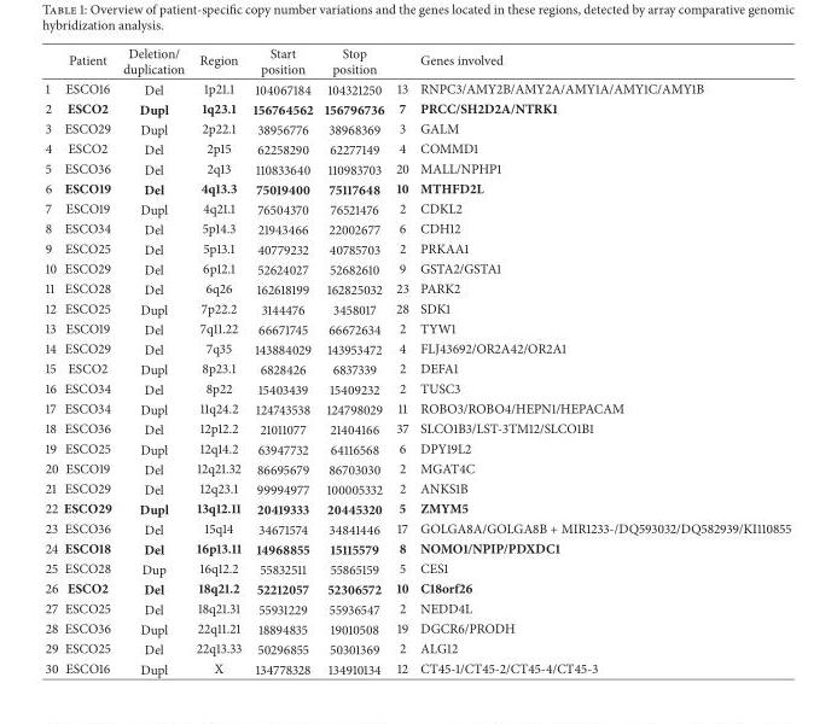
<table><thead><tr><td></td><td>Patient</td><td>Deletion/ duplication</td><td>Region</td><td>Start position</td><td>Stop position</td><td></td><td>Genes involved</td></tr></thead><tbody><tr><td>1</td><td>ESCO16</td><td>Del</td><td>1p21.1</td><td>104067184</td><td>104321250</td><td>13</td><td>RNPC3/AMY2B/AMY2A/AMY1A/AMY1C/AMY1B</td></tr><tr><td>2</td><td>ESCO2</td><td>Dupl</td><td>1q23.1</td><td>156764562</td><td>156796736</td><td>7</td><td>PRCC/SH2D2A/NTRK1</td></tr><tr><td>3</td><td>ESCO29</td><td>Dupl</td><td>2p22.1</td><td>38956776</td><td>38968369</td><td>3</td><td>GALM</td></tr><tr><td>4</td><td>ESCO2</td><td>Del</td><td>2p15</td><td>62258290</td><td>62277149</td><td>4</td><td>COMMD1</td></tr><tr><td>5</td><td>ESCO36</td><td>Del</td><td>2q13</td><td>110833640</td><td>110983703</td><td>20</td><td>MALL/NPHP1</td></tr><tr><td>6</td><td>ESCO19</td><td>Del</td><td>4q13.3</td><td>75019400</td><td>75117648</td><td>10</td><td>MTHFD2L</td></tr><tr><td>7</td><td>ESCO19</td><td>Dupl</td><td>4q21.1</td><td>76504370</td><td>76521476</td><td>2</td><td>CDKL2</td></tr><tr><td>8</td><td>ESCO34</td><td>Del</td><td>5p14.3</td><td>21943466</td><td>22002677</td><td>6</td><td>CDH12</td></tr><tr><td>9</td><td>ESCO25</td><td>Del</td><td>5p13.1</td><td>40779232</td><td>40785703</td><td>2</td><td>PRKAA1</td></tr><tr><td>10</td><td>ESCO29</td><td>Del</td><td>6p12.1</td><td>52624027</td><td>52682610</td><td>9</td><td>GSTA2/GSTA1</td></tr><tr><td>11</td><td>ESCO28</td><td>Del</td><td>6q26</td><td>162618199</td><td>162825032</td><td>23</td><td>PARK2</td></tr><tr><td>12</td><td>ESCO25</td><td>Dupl</td><td>7p22.2</td><td>3144476</td><td>3458017</td><td>28</td><td>SDK1</td></tr><tr><td>13</td><td>ESCO19</td><td>Del</td><td>7q11.22</td><td>66671745</td><td>66672634</td><td>2</td><td>TYW1</td></tr><tr><td>14</td><td>ESCO29</td><td>Del</td><td>7q35</td><td>143884029</td><td>143953472</td><td>4</td><td>FLJ43692/OR2A42/OR2A1</td></tr><tr><td>15</td><td>ESCO2</td><td>Dupl</td><td>8p23.1</td><td>6828426</td><td>6837339</td><td>2</td><td>DEFA1</td></tr><tr><td>16</td><td>ESCO34</td><td>Del</td><td>8p22</td><td>15403439</td><td>15409232</td><td>2</td><td>TUSC3</td></tr><tr><td>17</td><td>ESCO34</td><td>Dupl</td><td>11q24.2</td><td>124743538</td><td>124798029</td><td>11</td><td>ROBO3/ROBO4/HEPN1/HEPACAM</td></tr><tr><td>18</td><td>ESCO36</td><td>Del</td><td>12p12.2</td><td>21011077</td><td>21404166</td><td>37</td><td>SLCO1B3/LST-3TM12/SLCO1B1</td></tr><tr><td>19</td><td>ESCO25</td><td>Dupl</td><td>12q14.2</td><td>63947732</td><td>64116568</td><td>6</td><td>DPY19L2</td></tr><tr><td>20</td><td>ESCO19</td><td>Del</td><td>12q21.32</td><td>86695679</td><td>86703030</td><td>2</td><td>MGAT4C</td></tr><tr><td>21</td><td>ESCO29</td><td>Del</td><td>12q23.1</td><td>99994977</td><td>100005332</td><td>2</td><td>ANKS1B</td></tr><tr><td>22</td><td>ESCO29</td><td>Dupl</td><td>13q12.11</td><td>20419333</td><td>20445320</td><td>5</td><td>ZMYM5</td></tr><tr><td>23</td><td>ESCO36</td><td>Del</td><td>15q14</td><td>34671574</td><td>34841446</td><td>17</td><td>GOLGA8A/GOLGA8B + MIR1233-/DQ593032/DQ582939/KI110855</td></tr><tr><td>24</td><td>ESCO18</td><td>Del</td><td>16p13.11</td><td>14968855</td><td>15115579</td><td>8</td><td>NOMO1/NPIP/PDXDC1</td></tr><tr><td>25</td><td>ESCO28</td><td>Dup</td><td>16q12.2</td><td>55832511</td><td>55865159</td><td>5</td><td>CES1</td></tr><tr><td>26</td><td>ESCO2</td><td>Del</td><td>18q21.2</td><td>52212057</td><td>52306572</td><td>10</td><td>C18orf26</td></tr><tr><td>27</td><td>ESCO25</td><td>Del</td><td>18q21.31</td><td>55931229</td><td>55936547</td><td>2</td><td>NEDD4L</td></tr><tr><td>28</td><td>ESCO36</td><td>Dupl</td><td>22q11.21</td><td>18894835</td><td>19010508</td><td>19</td><td>DGCR6/PRODH</td></tr><tr><td>29</td><td>ESCO25</td><td>Del</td><td>22q13.33</td><td>50296855</td><td>50301369</td><td>2</td><td>ALG12</td></tr><tr><td>30</td><td>ESCO16</td><td>Dupl</td><td>X</td><td>134778328</td><td>134910134</td><td>12</td><td>CT45-1/CT45-2/CT45-4/CT45-3</td></tr></tbody></table>